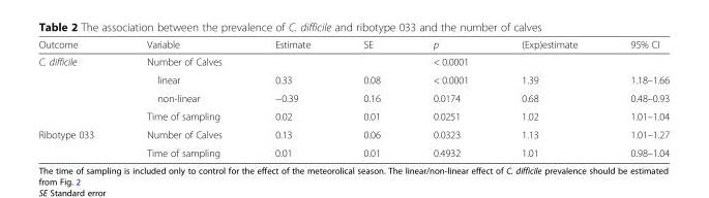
<table><thead><tr><td>Outcome</td><td>Variable</td><td>Estimate</td><td>SE</td><td>p</td><td>(Exp)estimate</td><td>95% CI</td></tr></thead><tbody><tr><td rowspan="4">C. difficile</td><td>Number of Calves</td><td></td><td></td><td>&lt; 0.0001</td><td></td><td></td></tr><tr><td>linear</td><td>0.33</td><td>0.08</td><td>&lt; 0.0001</td><td>1.39</td><td>1.18–1.66</td></tr><tr><td>non-linear</td><td>−0.39</td><td>0.16</td><td>0.0174</td><td>0.68</td><td>0.48–0.93</td></tr><tr><td>Time of sampling</td><td>0.02</td><td>0.01</td><td>0.0251</td><td>1.02</td><td>1.01–1.04</td></tr><tr><td rowspan="2">Ribotype 033</td><td>Number of Calves</td><td>0.13</td><td>0.06</td><td>0.0323</td><td>1.13</td><td>1.01–1.27</td></tr><tr><td>Time of sampling</td><td>0.01</td><td>0.01</td><td>0.4932</td><td>1.01</td><td>0.98–1.04</td></tr></tbody></table>